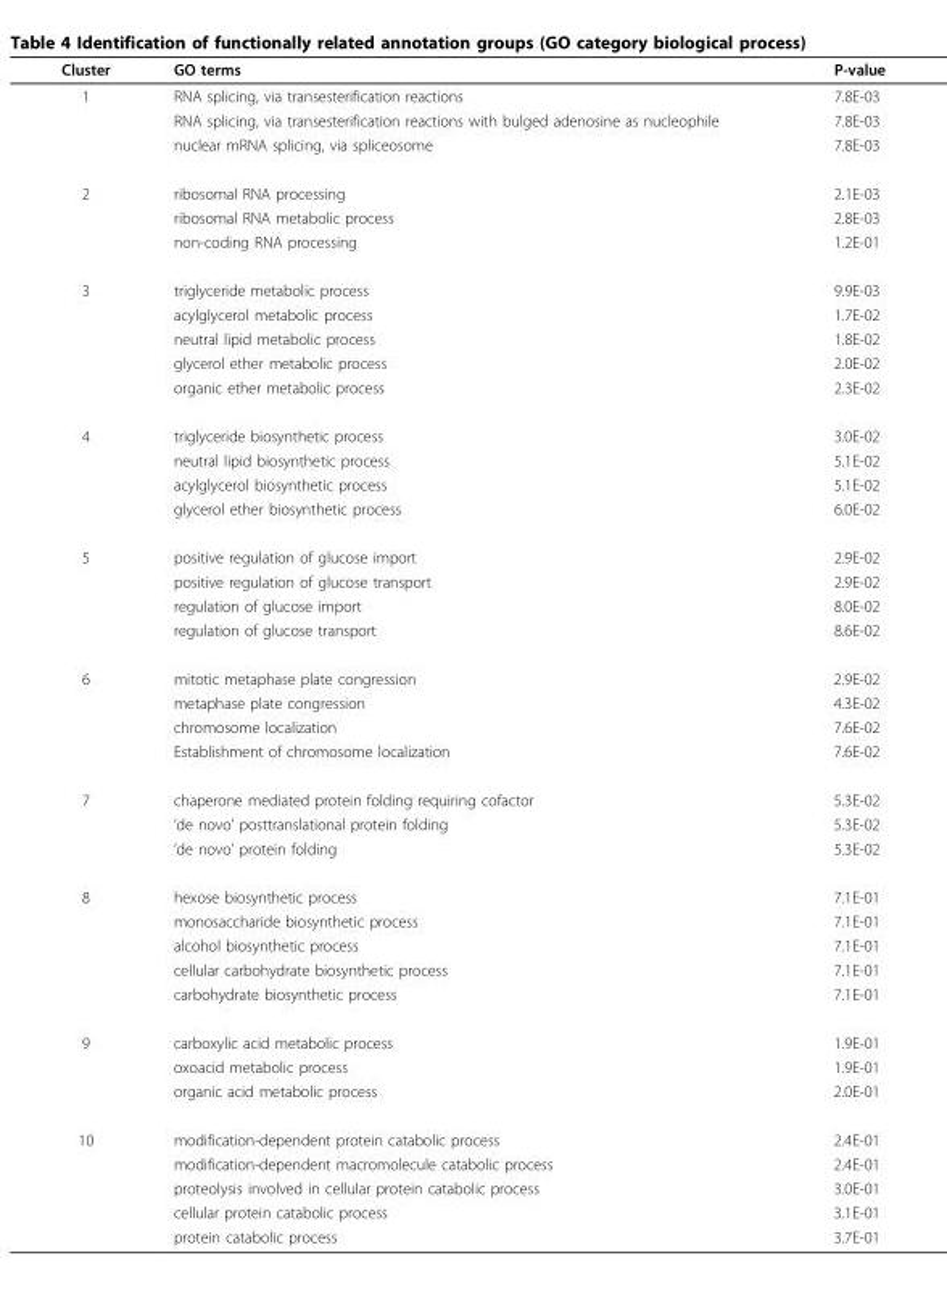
<table><thead><tr><td>Cluster</td><td>GO terms</td><td>P-value</td></tr></thead><tbody><tr><td rowspan="3">1</td><td>RNA splicing, via transesterification reactions</td><td>7.8E-03</td></tr><tr><td>RNA splicing, via transesterification reactions with bulged adenosine as nucleophile</td><td>7.8E-03</td></tr><tr><td>nuclear mRNA splicing, via spliceosome</td><td>7.8E-03</td></tr><tr><td rowspan="3">2</td><td>ribosomal RNA processing</td><td>2.1E-03</td></tr><tr><td>ribosomal RNA metabolic process</td><td>2.8E-03</td></tr><tr><td>non-coding RNA processing</td><td>1.2E-01</td></tr><tr><td rowspan="5">3</td><td>triglyceride metabolic process</td><td>9.9E-03</td></tr><tr><td>acylglycerol metabolic process</td><td>1.7E-02</td></tr><tr><td>neutral lipid metabolic process</td><td>1.8E-02</td></tr><tr><td>glycerol ether metabolic process</td><td>2.0E-02</td></tr><tr><td>organic ether metabolic process</td><td>2.3E-02</td></tr><tr><td rowspan="4">4</td><td>triglyceride biosynthetic process</td><td>3.0E-02</td></tr><tr><td>neutral lipid biosynthetic process</td><td>5.1E-02</td></tr><tr><td>acylglycerol biosynthetic process</td><td>5.1E-02</td></tr><tr><td>glycerol ether biosynthetic process</td><td>6.0E-02</td></tr><tr><td rowspan="4">5</td><td>positive regulation of glucose import</td><td>2.9E-02</td></tr><tr><td>positive regulation of glucose transport</td><td>2.9E-02</td></tr><tr><td>regulation of glucose import</td><td>8.0E-02</td></tr><tr><td>regulation of glucose transport</td><td>8.6E-02</td></tr><tr><td rowspan="4">6</td><td>mitotic metaphase plate congression</td><td>2.9E-02</td></tr><tr><td>metaphase plate congression</td><td>4.3E-02</td></tr><tr><td>chromosome localization</td><td>7.6E-02</td></tr><tr><td>Establishment of chromosome localization</td><td>7.6E-02</td></tr><tr><td rowspan="3">7</td><td>chaperone mediated protein folding requiring cofactor</td><td>5.3E-02</td></tr><tr><td>’de novo’ posttranslational protein folding</td><td>5.3E-02</td></tr><tr><td>’de novo’ protein folding</td><td>5.3E-02</td></tr><tr><td rowspan="5">8</td><td>hexose biosynthetic process</td><td>7.1E-01</td></tr><tr><td>monosaccharide biosynthetic process</td><td>7.1E-01</td></tr><tr><td>alcohol biosynthetic process</td><td>7.1E-01</td></tr><tr><td>cellular carbohydrate biosynthetic process</td><td>7.1E-01</td></tr><tr><td>carbohydrate biosynthetic process</td><td>7.1E-01</td></tr><tr><td rowspan="3">9</td><td>carboxylic acid metabolic process</td><td>1.9E-01</td></tr><tr><td>oxoacid metabolic process</td><td>1.9E-01</td></tr><tr><td>organic acid metabolic process</td><td>2.0E-01</td></tr><tr><td rowspan="5">10</td><td>modification-dependent protein catabolic process</td><td>2.4E-01</td></tr><tr><td>modification-dependent macromolecule catabolic process</td><td>2.4E-01</td></tr><tr><td>proteolysis involved in cellular protein catabolic process</td><td>3.0E-01</td></tr><tr><td>cellular protein catabolic process</td><td>3.1E-01</td></tr><tr><td>protein catabolic process</td><td>3.7E-01</td></tr></tbody></table>